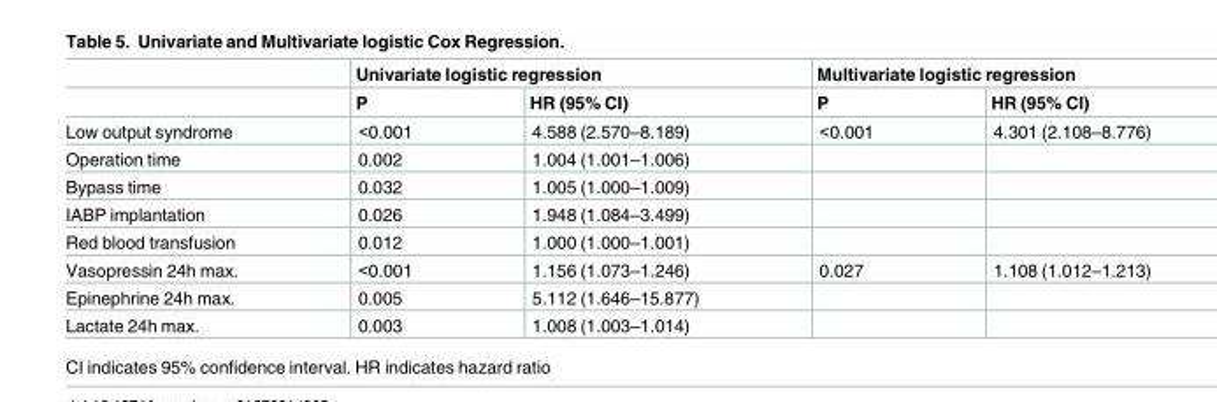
<table><thead><tr><td rowspan="2"></td><td colspan="2">Univariate logistic regression</td><td colspan="2">Multivariate logistic regression</td></tr><tr><td>P</td><td>HR (95% CI)</td><td>P</td><td>HR (95% CI)</td></tr></thead><tbody><tr><td>Low output syndrome</td><td>&lt;0.001</td><td>4.588 (2.570–8.189)</td><td>&lt;0.001</td><td>4.301 (2.108–8.776)</td></tr><tr><td>Operation time</td><td>0.002</td><td>1.004 (1.001–1.006)</td><td></td><td></td></tr><tr><td>Bypass time</td><td>0.032</td><td>1.005 (1.000–1.009)</td><td></td><td></td></tr><tr><td>IABP implantation</td><td>0.026</td><td>1.948 (1.084–3.499)</td><td></td><td></td></tr><tr><td>Red blood transfusion</td><td>0.012</td><td>1.000 (1.000–1.001)</td><td></td><td></td></tr><tr><td>Vasopressin 24h max.</td><td>&lt;0.001</td><td>1.156 (1.073–1.246)</td><td>0.027</td><td>1.108 (1.012–1.213)</td></tr><tr><td>Epinephrine 24h max.</td><td>0.005</td><td>5.112 (1.646–15.877)</td><td></td><td></td></tr><tr><td>Lactate 24h max.</td><td>0.003</td><td>1.008 (1.003–1.014)</td><td></td><td></td></tr></tbody></table>